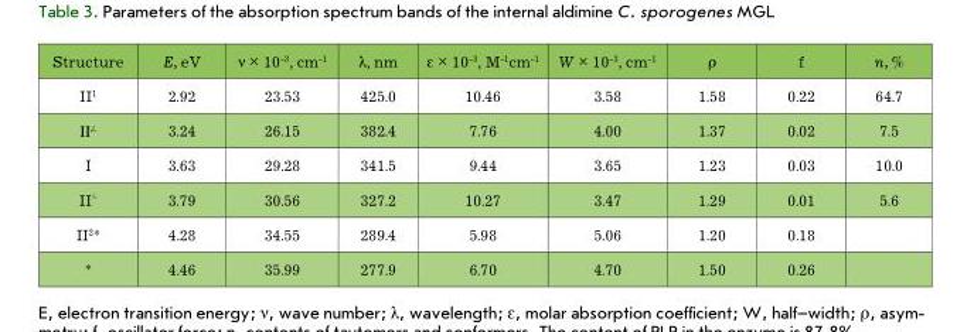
<table><thead><tr><td>Structure</td><td>E, eV</td><td>ν × 10<sup>-3</sup>, cm<sup>-1</sup></td><td>λ, nm</td><td>ε × 10-3, M<sup>-1</sup>cm<sup>-1</sup></td><td>W × 10<sup>-3</sup>, cm<sup>-1</sup></td><td>ρ</td><td>f</td><td>n, %</td></tr></thead><tbody><tr><td>II<sup>1</sup></td><td>2.92</td><td>23.53</td><td>425.0</td><td>10.46</td><td>3.58</td><td>1.58</td><td>0.22</td><td>64.7</td></tr><tr><td>II</td><td>3.24</td><td>26.15</td><td>382.4</td><td>7.76</td><td>4.00</td><td>1.37</td><td>0.02</td><td>7.5</td></tr><tr><td>I</td><td>3.63</td><td>29.28</td><td>341.5</td><td>9.44</td><td>3.65</td><td>1.23</td><td>0.03</td><td>10.0</td></tr><tr><td>II<sup>┴</sup></td><td>3.79</td><td>30.56</td><td>327.2</td><td>10.27</td><td>3.47</td><td>1.29</td><td>0.01</td><td>5.6</td></tr><tr><td>II<sup>2*</sup></td><td>4.28</td><td>34.55</td><td>289.4</td><td>5.98</td><td>5.06</td><td>1.20</td><td>0.18</td><td></td></tr><tr><td>*</td><td>4.46</td><td>35.99</td><td>277.9</td><td>6.70</td><td>4.70</td><td>1.50</td><td>0.26</td><td></td></tr></tbody></table>